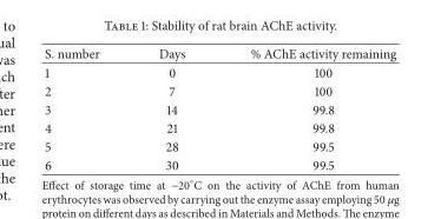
<table><thead><tr><td>S. number</td><td>Days</td><td>% AChE activity remaining</td></tr></thead><tbody><tr><td>1</td><td>0</td><td>100</td></tr><tr><td>2</td><td>7</td><td>100</td></tr><tr><td>3</td><td>14</td><td>99.8</td></tr><tr><td>4</td><td>21</td><td>99.8</td></tr><tr><td>5</td><td>28</td><td>99.5</td></tr><tr><td>6</td><td>30</td><td>99.5</td></tr></tbody></table>